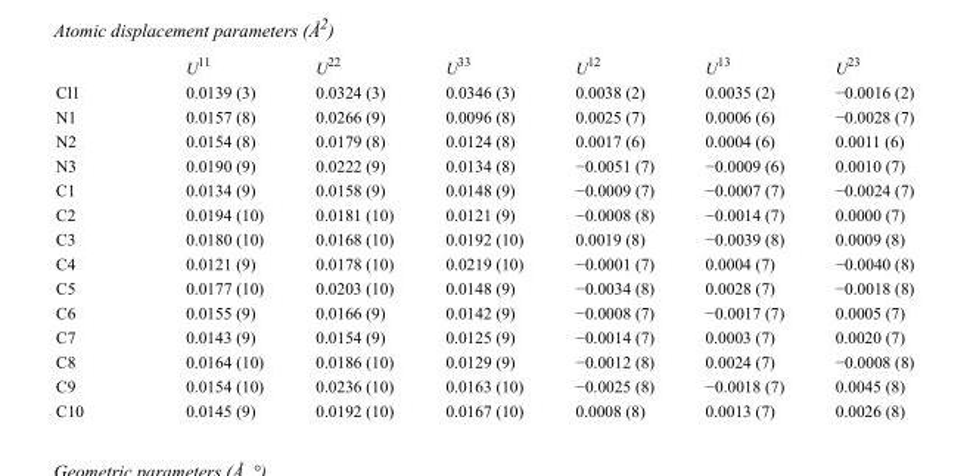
<table><thead><tr><td></td><td>U<sup>11</sup></td><td>U<sup>22</sup></td><td>U<sup>33</sup></td><td>U<sup>12</sup></td><td>U<sup>13</sup></td><td>U<sup>23</sup></td></tr></thead><tbody><tr><td>Cl1</td><td>0.0139 (3)</td><td>0.0324 (3)</td><td>0.0346 (3)</td><td>0.0038 (2)</td><td>0.0035 (2)</td><td>−0.0016 (2)</td></tr><tr><td>N1</td><td>0.0157 (8)</td><td>0.0266 (9)</td><td>0.0096 (8)</td><td>0.0025 (7)</td><td>0.0006 (6)</td><td>−0.0028 (7)</td></tr><tr><td>N2</td><td>0.0154 (8)</td><td>0.0179 (8)</td><td>0.0124 (8)</td><td>0.0017 (6)</td><td>0.0004 (6)</td><td>0.0011 (6)</td></tr><tr><td>N3</td><td>0.0190 (9)</td><td>0.0222 (9)</td><td>0.0134 (8)</td><td>−0.0051 (7)</td><td>−0.0009 (6)</td><td>0.0010 (7)</td></tr><tr><td>C1</td><td>0.0134 (9)</td><td>0.0158 (9)</td><td>0.0148 (9)</td><td>−0.0009 (7)</td><td>−0.0007 (7)</td><td>−0.0024 (7)</td></tr><tr><td>C2</td><td>0.0194 (10)</td><td>0.0181 (10)</td><td>0.0121 (9)</td><td>−0.0008 (8)</td><td>−0.0014 (7)</td><td>0.0000 (7)</td></tr><tr><td>C3</td><td>0.0180 (10)</td><td>0.0168 (10)</td><td>0.0192 (10)</td><td>0.0019 (8)</td><td>−0.0039 (8)</td><td>0.0009 (8)</td></tr><tr><td>C4</td><td>0.0121 (9)</td><td>0.0178 (10)</td><td>0.0219 (10)</td><td>−0.0001 (7)</td><td>0.0004 (7)</td><td>−0.0040 (8)</td></tr><tr><td>C5</td><td>0.0177 (10)</td><td>0.0203 (10)</td><td>0.0148 (9)</td><td>−0.0034 (8)</td><td>0.0028 (7)</td><td>−0.0018 (8)</td></tr><tr><td>C6</td><td>0.0155 (9)</td><td>0.0166 (9)</td><td>0.0142 (9)</td><td>−0.0008 (7)</td><td>−0.0017 (7)</td><td>0.0005 (7)</td></tr><tr><td>C7</td><td>0.0143 (9)</td><td>0.0154 (9)</td><td>0.0125 (9)</td><td>−0.0014 (7)</td><td>0.0003 (7)</td><td>0.0020 (7)</td></tr><tr><td>C8</td><td>0.0164 (10)</td><td>0.0186 (10)</td><td>0.0129 (9)</td><td>−0.0012 (8)</td><td>0.0024 (7)</td><td>−0.0008 (8)</td></tr><tr><td>C9</td><td>0.0154 (10)</td><td>0.0236 (10)</td><td>0.0163 (10)</td><td>−0.0025 (8)</td><td>−0.0018 (7)</td><td>0.0045 (8)</td></tr><tr><td>C10</td><td>0.0145 (9)</td><td>0.0192 (10)</td><td>0.0167 (10)</td><td>0.0008 (8)</td><td>0.0013 (7)</td><td>0.0026 (8)</td></tr></tbody></table>